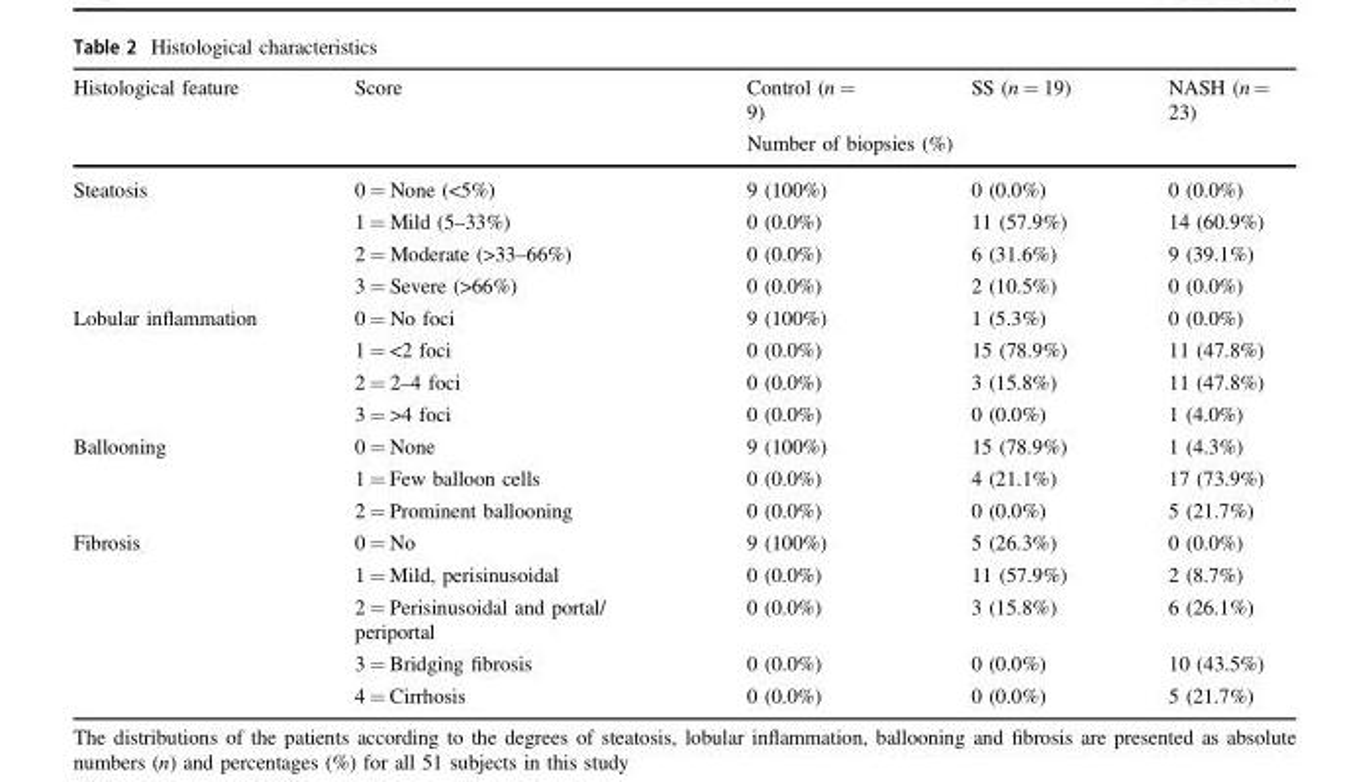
<table><thead><tr><td rowspan="2">Histological feature</td><td rowspan="2">Score</td><td>Control (n = 9)</td><td>SS (n = 19)</td><td>NASH (n = 23)</td></tr><tr><td colspan="3">Number of biopsies (%)</td></tr></thead><tbody><tr><td rowspan="4">Steatosis</td><td>0 = None (&lt;5%)</td><td>9 (100%)</td><td>0 (0.0%)</td><td>0 (0.0%)</td></tr><tr><td>1 = Mild (5–33%)</td><td>0 (0.0%)</td><td>11 (57.9%)</td><td>14 (60.9%)</td></tr><tr><td>2 = Moderate (&gt;33–66%)</td><td>0 (0.0%)</td><td>6 (31.6%)</td><td>9 (39.1%)</td></tr><tr><td>3 = Severe (&gt;66%)</td><td>0 (0.0%)</td><td>2 (10.5%)</td><td>0 (0.0%)</td></tr><tr><td rowspan="4">Lobular inflammation</td><td>0 = No foci</td><td>9 (100%)</td><td>1 (5.3%)</td><td>0 (0.0%)</td></tr><tr><td>1 = &lt;2 foci</td><td>0 (0.0%)</td><td>15 (78.9%)</td><td>11 (47.8%)</td></tr><tr><td>2 = 2–4 foci</td><td>0 (0.0%)</td><td>3 (15.8%)</td><td>11 (47.8%)</td></tr><tr><td>3 = &gt;4 foci</td><td>0 (0.0%)</td><td>0 (0.0%)</td><td>1 (4.0%)</td></tr><tr><td rowspan="3">Ballooning</td><td>0 = None</td><td>9 (100%)</td><td>15 (78.9%)</td><td>1 (4.3%)</td></tr><tr><td>1 = Few balloon cells</td><td>0 (0.0%)</td><td>4 (21.1%)</td><td>17 (73.9%)</td></tr><tr><td>2 = Prominent ballooning</td><td>0 (0.0%)</td><td>0 (0.0%)</td><td>5 (21.7%)</td></tr><tr><td rowspan="5">Fibrosis</td><td>0 = No</td><td>9 (100%)</td><td>5 (26.3%)</td><td>0 (0.0%)</td></tr><tr><td>1 = Mild, perisinusoidal</td><td>0 (0.0%)</td><td>11 (57.9%)</td><td>2 (8.7%)</td></tr><tr><td>2 = Perisinusoidal and portal/ periportal</td><td>0 (0.0%)</td><td>3 (15.8%)</td><td>6 (26.1%)</td></tr><tr><td>3 = Bridging fibrosis</td><td>0 (0.0%)</td><td>0 (0.0%)</td><td>10 (43.5%)</td></tr><tr><td>4 = Cirrhosis</td><td>0 (0.0%)</td><td>0 (0.0%)</td><td>5 (21.7%)</td></tr></tbody></table>